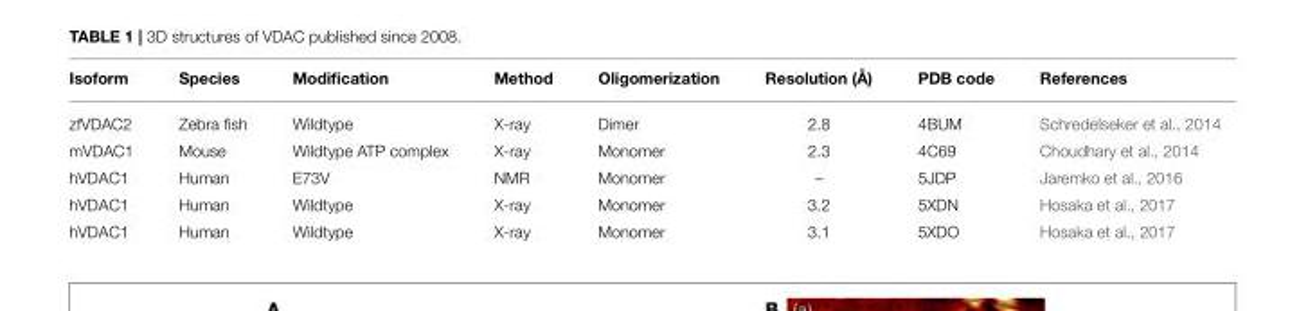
<table><thead><tr><td>Isoform</td><td>Species</td><td>Modification</td><td>Method</td><td>Oligomerization</td><td>Resolution (Å)</td><td>PDB code</td><td>References</td></tr></thead><tbody><tr><td>zfVDAC2</td><td>Zebra fish</td><td>Wildtype</td><td>X-ray</td><td>Dimer</td><td>2.8</td><td>4BUM</td><td>Schredelseker et al., 2014</td></tr><tr><td>mVDAC1</td><td>Mouse</td><td>Wildtype ATP complex</td><td>X-ray</td><td>Monomer</td><td>2.3</td><td>4C69</td><td>Choudhary et al., 2014</td></tr><tr><td>hVDAC1</td><td>Human</td><td>E73V</td><td>NMR</td><td>Monomer</td><td>–</td><td>5JDP</td><td>Jaremko et al., 2016</td></tr><tr><td>hVDAC1</td><td>Human</td><td>Wildtype</td><td>X-ray</td><td>Monomer</td><td>3.2</td><td>5XDN</td><td>Hosaka et al., 2017</td></tr><tr><td>hVDAC1</td><td>Human</td><td>Wildtype</td><td>X-ray</td><td>Monomer</td><td>3.1</td><td>5XDO</td><td>Hosaka et al., 2017</td></tr></tbody></table>